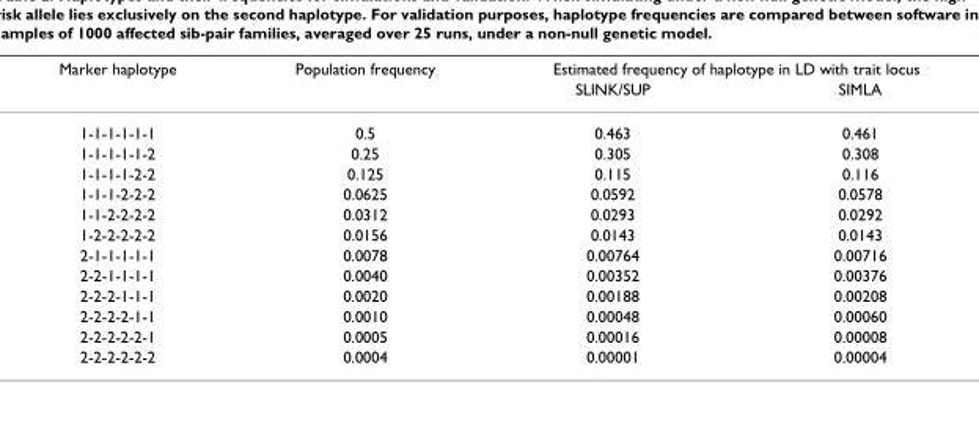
<table><thead><tr><td rowspan="2">Marker haplotype</td><td rowspan="2">Population frequency</td><td colspan="2">Estimated frequency of haplotype in LD with trait locus</td></tr><tr><td>SLINK/SUP</td><td>SIMLA</td></tr></thead><tbody><tr><td>1-1-1-1-1-1</td><td>0.5</td><td>0.463</td><td>0.461</td></tr><tr><td>1-1-1-1-1-2</td><td>0.25</td><td>0.305</td><td>0.308</td></tr><tr><td>1-1-1-1-2-2</td><td>0.125</td><td>0.115</td><td>0.116</td></tr><tr><td>1-1-1-2-2-2</td><td>0.0625</td><td>0.0592</td><td>0.0578</td></tr><tr><td>1-1-2-2-2-2</td><td>0.0312</td><td>0.0293</td><td>0.0292</td></tr><tr><td>1-2-2-2-2-2</td><td>0.0156</td><td>0.0143</td><td>0.0143</td></tr><tr><td>2-1-1-1-1-1</td><td>0.0078</td><td>0.00764</td><td>0.00716</td></tr><tr><td>2-2-1-1-1-1</td><td>0.0040</td><td>0.00352</td><td>0.00376</td></tr><tr><td>2-2-2-1-1-1</td><td>0.0020</td><td>0.00188</td><td>0.00208</td></tr><tr><td>2-2-2-2-1-1</td><td>0.0010</td><td>0.00048</td><td>0.00060</td></tr><tr><td>2-2-2-2-2-1</td><td>0.0005</td><td>0.00016</td><td>0.00008</td></tr><tr><td>2-2-2-2-2-2</td><td>0.0004</td><td>0.00001</td><td>0.00004</td></tr></tbody></table>